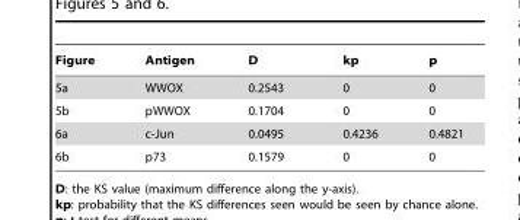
<table><thead><tr><td>Figure</td><td>Antigen</td><td>D</td><td>kp</td><td>p</td></tr></thead><tbody><tr><td>5a</td><td>WWOX</td><td>0.2543</td><td>0</td><td>0</td></tr><tr><td>5b</td><td>pWWOX</td><td>0.1704</td><td>0</td><td>0</td></tr><tr><td>6a</td><td>c-Jun</td><td>0.0495</td><td>0.4236</td><td>0.4821</td></tr><tr><td>6b</td><td>p73</td><td>0.1579</td><td>0</td><td>0</td></tr></tbody></table>